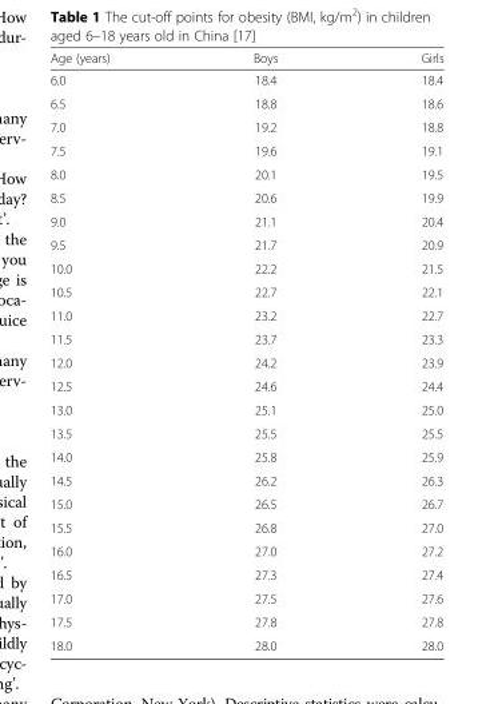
<table><thead><tr><td>Age (years)</td><td>Boys</td><td>Girls</td></tr></thead><tbody><tr><td>6.0</td><td>18.4</td><td>18.4</td></tr><tr><td>6.5</td><td>18.8</td><td>18.6</td></tr><tr><td>7.0</td><td>19.2</td><td>18.8</td></tr><tr><td>7.5</td><td>19.6</td><td>19.1</td></tr><tr><td>8.0</td><td>20.1</td><td>19.5</td></tr><tr><td>8.5</td><td>20.6</td><td>19.9</td></tr><tr><td>9.0</td><td>21.1</td><td>20.4</td></tr><tr><td>9.5</td><td>21.7</td><td>20.9</td></tr><tr><td>10.0</td><td>22.2</td><td>21.5</td></tr><tr><td>10.5</td><td>22.7</td><td>22.1</td></tr><tr><td>11.0</td><td>23.2</td><td>22.7</td></tr><tr><td>11.5</td><td>23.7</td><td>23.3</td></tr><tr><td>12.0</td><td>24.2</td><td>23.9</td></tr><tr><td>12.5</td><td>24.6</td><td>24.4</td></tr><tr><td>13.0</td><td>25.1</td><td>25.0</td></tr><tr><td>13.5</td><td>25.5</td><td>25.5</td></tr><tr><td>14.0</td><td>25.8</td><td>25.9</td></tr><tr><td>14.5</td><td>26.2</td><td>26.3</td></tr><tr><td>15.0</td><td>26.5</td><td>26.7</td></tr><tr><td>15.5</td><td>26.8</td><td>27.0</td></tr><tr><td>16.0</td><td>27.0</td><td>27.2</td></tr><tr><td>16.5</td><td>27.3</td><td>27.4</td></tr><tr><td>17.0</td><td>27.5</td><td>27.6</td></tr><tr><td>17.5</td><td>27.8</td><td>27.8</td></tr><tr><td>18.0</td><td>28.0</td><td>28.0</td></tr></tbody></table>